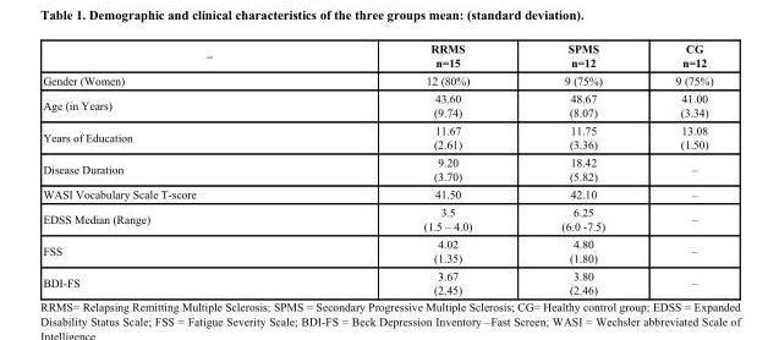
<table><thead><tr><td>–</td><td>RRMS n=15</td><td>SPMS n=12</td><td>CG n=12</td></tr></thead><tbody><tr><td>Gender (Women)</td><td>12 (80%)</td><td>9 (75%)</td><td>9 (75%)</td></tr><tr><td>Age (in Years)</td><td>43.60 (9.74)</td><td>48.67 (8.07)</td><td>41.00 (3.34)</td></tr><tr><td>Years of Education</td><td>11.67 (2.61)</td><td>11.75 (3.36)</td><td>13.08 (1.50)</td></tr><tr><td>Disease Duration</td><td>9.20 (3.70)</td><td>18.42 (5.82)</td><td>–</td></tr><tr><td>WASI Vocabulary Scale T-score</td><td>41.50</td><td>42.10</td><td>–</td></tr><tr><td>EDSS Median (Range)</td><td>3.5 (1.5 – 4.0)</td><td>6.25 (6.0 -7.5)</td><td>–</td></tr><tr><td>FSS</td><td>4.02 (1.35)</td><td>4.80 (1.80)</td><td>–</td></tr><tr><td>BDI-FS</td><td>3.67 (2.45)</td><td>3.80 (2.46)</td><td>–</td></tr></tbody></table>